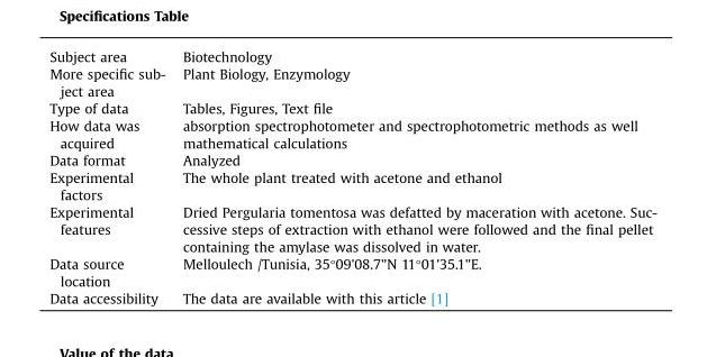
<table><tbody><tr><td>Subject area</td><td>Biotechnology</td></tr><tr><td>More specific sub- ject area</td><td>Plant Biology, Enzymology</td></tr><tr><td>Type of data</td><td>Tables, Figures, Text file</td></tr><tr><td>How data was acquired</td><td>absorption spectrophotometer and spectrophotometric methods as well mathematical calculations</td></tr><tr><td>Data format</td><td>Analyzed</td></tr><tr><td>Experimental factors</td><td>The whole plant treated with acetone and ethanol</td></tr><tr><td>Experimental features</td><td>Dried Pergularia tomentosa was defatted by maceration with acetone. Suc- cessive steps of extraction with ethanol were followed and the final pellet containing the amylase was dissolved in water.</td></tr><tr><td>Data source location</td><td>Melloulech /Tunisia, 35°09&#x27;08.7&quot;N 11°01&#x27;35.1&quot;E.</td></tr><tr><td>Data accessibility</td><td>The data are available with this article [1]</td></tr></tbody></table>